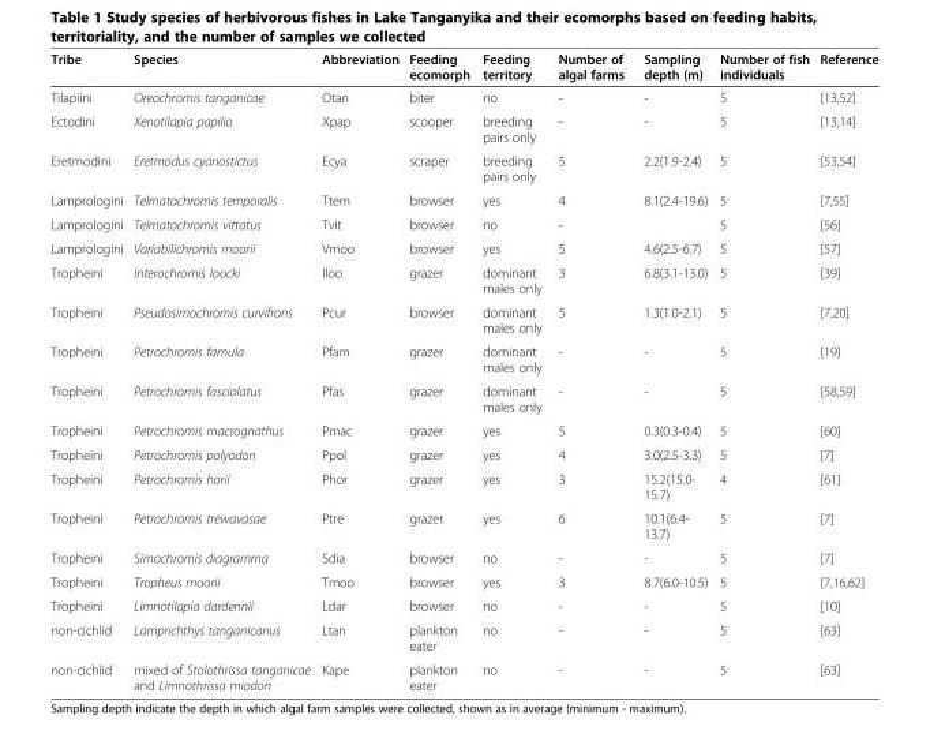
<table><thead><tr><td>Tribe</td><td>Species</td><td>Abbreviation</td><td>Feeding ecomorph</td><td>Feeding territory</td><td>Number of algal farms</td><td>Sampling depth (m)</td><td>Number of fish individuals</td><td>Reference</td></tr></thead><tbody><tr><td>Tilapiini</td><td>Oreochromis tanganicae</td><td>Otan</td><td>biter</td><td>no</td><td>-</td><td>-</td><td>5</td><td>[13,52]</td></tr><tr><td>Ectodini</td><td>Xenotilapia papilio</td><td>Xpap</td><td>scooper</td><td>breeding pairs only</td><td>-</td><td>-</td><td>5</td><td>[13,14]</td></tr><tr><td>Eretmodini</td><td>Eretmodus cyanostictus</td><td>Ecya</td><td>scraper</td><td>breeding pairs only</td><td>5</td><td>2.2(1.9-2.4)</td><td>5</td><td>[53,54]</td></tr><tr><td>Lamprologini</td><td>Telmatochromis temporalis</td><td>Ttem</td><td>browser</td><td>yes</td><td>4</td><td>8.1(2.4-19.6)</td><td>5</td><td>[7,55]</td></tr><tr><td>Lamprologini</td><td>Telmatochromis vittatus</td><td>Tvit</td><td>browser</td><td>no</td><td>-</td><td></td><td>5</td><td>[56]</td></tr><tr><td>Lamprologini</td><td>Variabilichromis moorii</td><td>Vmoo</td><td>browser</td><td>yes</td><td>5</td><td>4.6(2.5-6.7)</td><td>5</td><td>[57]</td></tr><tr><td>Tropheini</td><td>Interochromis loocki</td><td>Iloo</td><td>grazer</td><td>dominant males only</td><td>3</td><td>6.8(3.1-13.0)</td><td>5</td><td>[39]</td></tr><tr><td>Tropheini</td><td>Pseudosimochromis curvifrons</td><td>Pcur</td><td>browser</td><td>dominant males only</td><td>5</td><td>1.3(1.0-2.1)</td><td>5</td><td>[7,20]</td></tr><tr><td>Tropheini</td><td>Petrochromis famula</td><td>Pfam</td><td>grazer</td><td>dominant males only</td><td>-</td><td>-</td><td>5</td><td>[19]</td></tr><tr><td>Tropheini</td><td>Petrochromis fasciolatus</td><td>Pfas</td><td>grazer</td><td>dominant males only</td><td>-</td><td>-</td><td>5</td><td>[58,59]</td></tr><tr><td>Tropheini</td><td>Petrochromis macrognathus</td><td>Pmac</td><td>grazer</td><td>yes</td><td>5</td><td>0.3(0.3-0.4)</td><td>5</td><td>[60]</td></tr><tr><td>Tropheini</td><td>Petrochromis polyodon</td><td>Ppol</td><td>grazer</td><td>yes</td><td>4</td><td>3.0(2.5-3.3)</td><td>5</td><td>[7]</td></tr><tr><td>Tropheini</td><td>Petrochromis horii</td><td>Phor</td><td>grazer</td><td>yes</td><td>3</td><td>15.2(15.0- 15.7)</td><td>4</td><td>[61]</td></tr><tr><td>Tropheini</td><td>Petrochromis trewavasae</td><td>Ptre</td><td>grazer</td><td>yes</td><td>6</td><td>10.1(6.4- 13.7)</td><td>5</td><td>[7]</td></tr><tr><td>Tropheini</td><td>Simochromis diagramma</td><td>Sdia</td><td>browser</td><td>no</td><td>-</td><td>-</td><td>5</td><td>[7]</td></tr><tr><td>Tropheini</td><td>Tropheus moorii</td><td>Tmoo</td><td>browser</td><td>yes</td><td>3</td><td>8.7(6.0-10.5)</td><td>5</td><td>[7,16,62]</td></tr><tr><td>Tropheini</td><td>Limnotilapia dardennii</td><td>Ldar</td><td>browser</td><td>no</td><td>-</td><td>-</td><td>5</td><td>[10]</td></tr><tr><td>non-cichlid</td><td>Lamprichthys tanganicanus</td><td>Ltan</td><td>plankton eater</td><td>no</td><td>-</td><td>-</td><td>5</td><td>[63]</td></tr><tr><td>non-cichlid</td><td>mixed of Stolothrissa tanganicae and Limnothrissa miodon</td><td>Kape</td><td>plankton eater</td><td>no</td><td>-</td><td>-</td><td>5</td><td>[63]</td></tr></tbody></table>